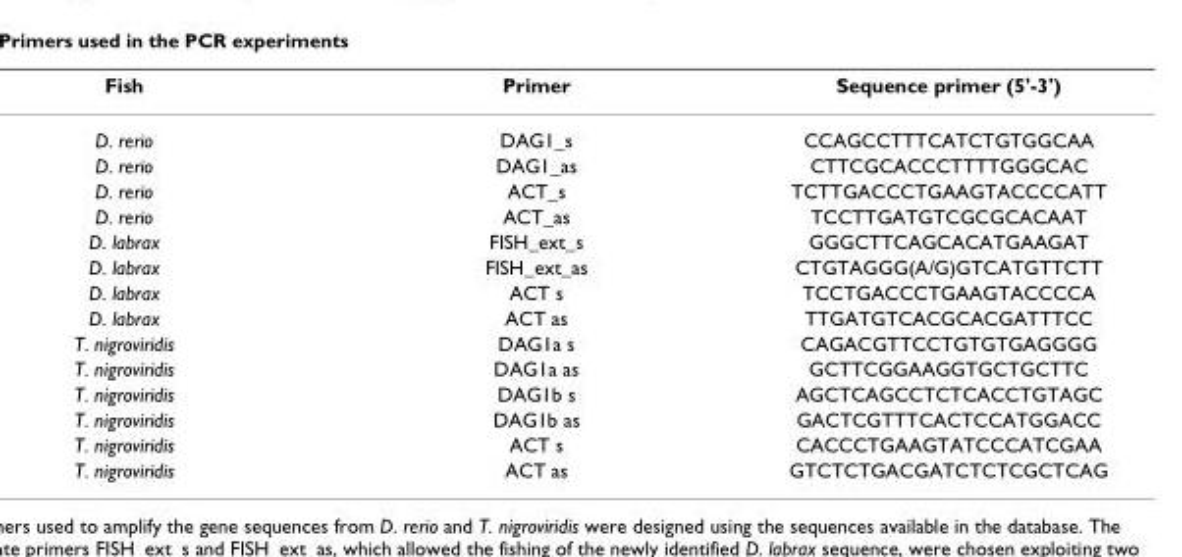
<table><thead><tr><td>Fish</td><td>Primer</td><td>Sequence primer (5&#x27;-3&#x27;)</td></tr></thead><tbody><tr><td>D. rerio</td><td>DAG1_s</td><td>CCAGCCTTTCATCTGTGGCAA</td></tr><tr><td>D. rerio</td><td>DAG1_as</td><td>CTTCGCACCCTTTTGGGCAC</td></tr><tr><td>D. rerio</td><td>ACT_s</td><td>TCTTGACCCTGAAGTACCCCATT</td></tr><tr><td>D. rerio</td><td>ACT_as</td><td>TCCTTGATGTCGCGCACAAT</td></tr><tr><td>D. labrax</td><td>FISH_ext_s</td><td>GGGCTTCAGCACATGAAGAT</td></tr><tr><td>D. labrax</td><td>FISH_ext_as</td><td>CTGTAGGG(A/G)GTCATGTTCTT</td></tr><tr><td>D. labrax</td><td>ACT s</td><td>TCCTGACCCTGAAGTACCCCA</td></tr><tr><td>D. labrax</td><td>ACT as</td><td>TTGATGTCACGCACGATTTCC</td></tr><tr><td>T. nigroviridis</td><td>DAG1a s</td><td>CAGACGTTCCTGTGTGAGGGG</td></tr><tr><td>T. nigroviridis</td><td>DAG1a as</td><td>GCTTCGGAAGGTGCTGCTTC</td></tr><tr><td>T. nigroviridis</td><td>DAG1b s</td><td>AGCTCAGCCTCTCACCTGTAGC</td></tr><tr><td>T. nigroviridis</td><td>DAG1b as</td><td>GACTCGTTTCACTCCATGGACC</td></tr><tr><td>T. nigroviridis</td><td>ACT s</td><td>CACCCTGAAGTATCCCATCGAA</td></tr><tr><td>T. nigroviridis</td><td>ACT as</td><td>GTCTCTGACGATCTCTCGCTCAG</td></tr></tbody></table>